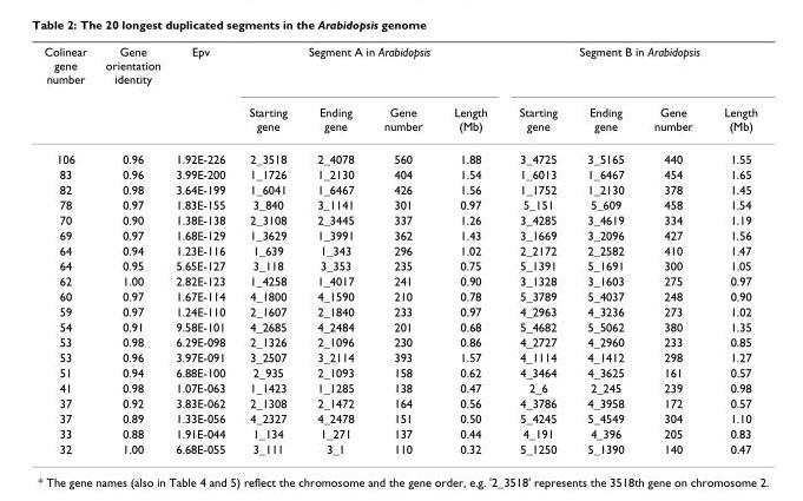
<table><thead><tr><td rowspan="2">Colinear gene number</td><td rowspan="2">Gene orientation identity</td><td rowspan="2">Epv</td><td colspan="4">Segment A in Arabidopsis</td><td colspan="4">Segment B in Arabidopsis</td></tr><tr><td>Starting gene</td><td>Ending gene</td><td>Gene number</td><td>Length (Mb)</td><td>Starting gene</td><td>Ending gene</td><td>Gene number</td><td>Length (Mb)</td></tr></thead><tbody><tr><td>106</td><td>0.96</td><td>1.92E-226</td><td>2_3518</td><td>2_4078</td><td>560</td><td>1.88</td><td>3_4725</td><td>3_5165</td><td>440</td><td>1.55</td></tr><tr><td>83</td><td>0.96</td><td>3.99E-200</td><td>1_1726</td><td>1_2130</td><td>404</td><td>1.54</td><td>1_6013</td><td>1_6467</td><td>454</td><td>1.65</td></tr><tr><td>82</td><td>0.98</td><td>3.64E-199</td><td>1_6041</td><td>1_6467</td><td>426</td><td>1.56</td><td>1_1752</td><td>1_2130</td><td>378</td><td>1.45</td></tr><tr><td>78</td><td>0.97</td><td>1.83E-155</td><td>3_840</td><td>3_1141</td><td>301</td><td>0.97</td><td>5_151</td><td>5_609</td><td>458</td><td>1.54</td></tr><tr><td>70</td><td>0.90</td><td>1.38E-138</td><td>2_3108</td><td>2_3445</td><td>337</td><td>1.26</td><td>3_4285</td><td>3_4619</td><td>334</td><td>1.19</td></tr><tr><td>69</td><td>0.97</td><td>1.68E-129</td><td>1_3629</td><td>1_3991</td><td>362</td><td>1.43</td><td>3_1669</td><td>3_2096</td><td>427</td><td>1.56</td></tr><tr><td>64</td><td>0.94</td><td>1.23E-116</td><td>1_639</td><td>1_343</td><td>296</td><td>1.02</td><td>2_2172</td><td>2_2582</td><td>410</td><td>1.47</td></tr><tr><td>64</td><td>0.95</td><td>5.65E-127</td><td>3_118</td><td>3_353</td><td>235</td><td>0.75</td><td>5_1391</td><td>5_1691</td><td>300</td><td>1.05</td></tr><tr><td>62</td><td>1.00</td><td>2.82E-123</td><td>1_4258</td><td>1_4017</td><td>241</td><td>0.90</td><td>3_1328</td><td>3_1603</td><td>275</td><td>0.97</td></tr><tr><td>60</td><td>0.97</td><td>1.67E-114</td><td>4_1800</td><td>4_1590</td><td>210</td><td>0.78</td><td>5_3789</td><td>5_4037</td><td>248</td><td>0.90</td></tr><tr><td>59</td><td>0.97</td><td>1.24E-110</td><td>2_1607</td><td>2_1840</td><td>233</td><td>0.97</td><td>4_2963</td><td>4_3236</td><td>273</td><td>1.02</td></tr><tr><td>54</td><td>0.91</td><td>9.58E-101</td><td>4_2685</td><td>4_2484</td><td>201</td><td>0.68</td><td>5_4682</td><td>5_5062</td><td>380</td><td>1.35</td></tr><tr><td>53</td><td>0.98</td><td>6.29E-098</td><td>2_1326</td><td>2_1096</td><td>230</td><td>0.86</td><td>4_2727</td><td>4_2960</td><td>233</td><td>0.85</td></tr><tr><td>53</td><td>0.96</td><td>3.97E-091</td><td>3_2507</td><td>3_2114</td><td>393</td><td>1.57</td><td>4_1114</td><td>4_1412</td><td>298</td><td>1.27</td></tr><tr><td>51</td><td>0.94</td><td>6.88E-100</td><td>2_935</td><td>2_1093</td><td>158</td><td>0.62</td><td>4_3464</td><td>4_3625</td><td>161</td><td>0.57</td></tr><tr><td>41</td><td>0.98</td><td>1.07E-063</td><td>1_1423</td><td>1_1285</td><td>138</td><td>0.47</td><td>2_6</td><td>2_245</td><td>239</td><td>0.98</td></tr><tr><td>37</td><td>0.92</td><td>3.83E-062</td><td>2_1308</td><td>2_1472</td><td>164</td><td>0.56</td><td>4_3786</td><td>4_3958</td><td>172</td><td>0.57</td></tr><tr><td>37</td><td>0.89</td><td>1.33E-056</td><td>4_2327</td><td>4_2478</td><td>151</td><td>0.50</td><td>5_4245</td><td>5_4549</td><td>304</td><td>1.10</td></tr><tr><td>33</td><td>0.88</td><td>1.91E-044</td><td>1_134</td><td>1_271</td><td>137</td><td>0.44</td><td>4_191</td><td>4_396</td><td>205</td><td>0.83</td></tr><tr><td>32</td><td>1.00</td><td>6.68E-055</td><td>3_111</td><td>3_1</td><td>110</td><td>0.32</td><td>5_1250</td><td>5_1390</td><td>140</td><td>0.47</td></tr></tbody></table>